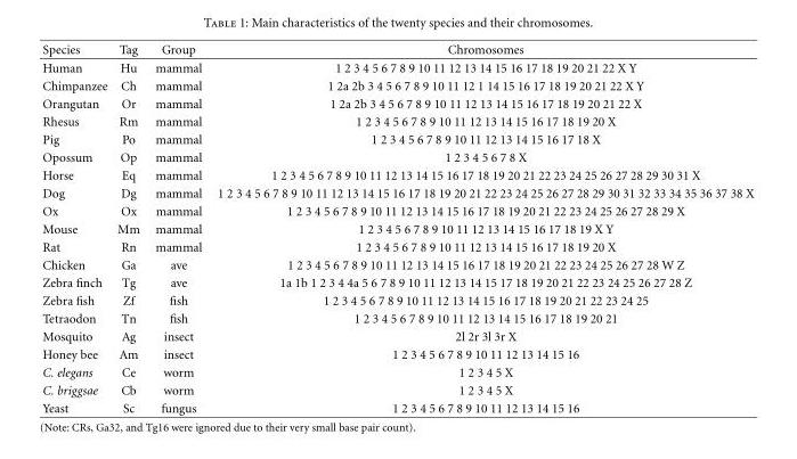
<table><thead><tr><td>Species</td><td>Tag</td><td>Group</td><td>Chromosomes</td></tr></thead><tbody><tr><td>Human</td><td>Hu</td><td>mammal</td><td>1 2 3 4 5 6 7 8 9 10 11 12 13 14 15 16 17 18 19 20 21 22 X Y</td></tr><tr><td>Chimpanzee</td><td>Ch</td><td>mammal</td><td>1 2a 2b 3 4 5 6 7 8 9 10 11 12 1 14 15 16 17 18 19 20 21 22 X Y</td></tr><tr><td>Orangutan</td><td>Or</td><td>mammal</td><td>1 2a 2b 3 4 5 6 7 8 9 10 11 12 13 14 15 16 17 18 19 20 21 22 X</td></tr><tr><td>Rhesus</td><td>Rm</td><td>mammal</td><td>1 2 3 4 5 6 7 8 9 10 11 12 13 14 15 16 17 18 19 20 X</td></tr><tr><td>Pig</td><td>Po</td><td>mammal</td><td>1 2 3 4 5 6 7 8 9 10 11 12 13 14 15 16 17 18 X</td></tr><tr><td>Opossum</td><td>Op</td><td>mammal</td><td>1 2 3 4 5 6 7 8 X</td></tr><tr><td>Horse</td><td>Eq</td><td>mammal</td><td>1 2 3 4 5 6 7 8 9 10 11 12 13 14 15 16 17 18 19 20 21 22 23 24 25 26 27 28 29 30 31 X</td></tr><tr><td>Dog</td><td>Dg</td><td>mammal</td><td>1 2 3 4 5 6 7 8 9 10 11 12 13 14 15 16 17 18 19 20 21 22 23 24 25 26 27 28 29 30 31 32 33 34 35 36 37 38 X</td></tr><tr><td>Ox</td><td>Ox</td><td>mammal</td><td>1 2 3 4 5 6 7 8 9 10 11 12 13 14 15 16 17 18 19 20 21 22 23 24 25 26 27 28 29 X</td></tr><tr><td>Mouse</td><td>Mm</td><td>mammal</td><td>1 2 3 4 5 6 7 8 9 10 11 12 13 14 15 16 17 18 19 X Y</td></tr><tr><td>Rat</td><td>Rn</td><td>mammal</td><td>1 2 3 4 5 6 7 8 9 10 11 12 13 14 15 16 17 18 19 20 X</td></tr><tr><td>Chicken</td><td>Ga</td><td>ave</td><td>1 2 3 4 5 6 7 8 9 10 11 12 13 14 15 16 17 18 19 20 21 22 23 24 25 26 27 28 W Z</td></tr><tr><td>Zebra finch</td><td>Tg</td><td>ave</td><td>1a 1b 1 2 3 4 4a 5 6 7 8 9 10 11 12 13 14 15 17 18 19 20 21 22 23 24 25 26 27 28 Z</td></tr><tr><td>Zebra fish</td><td>Zf</td><td>fish</td><td>1 2 3 4 5 6 7 8 9 10 11 12 13 14 15 16 17 18 19 20 21 22 23 24 25</td></tr><tr><td>Tetraodon</td><td>Tn</td><td>fish</td><td>1 2 3 4 5 6 7 8 9 10 11 12 13 14 15 16 17 18 19 20 21</td></tr><tr><td>Mosquito</td><td>Ag</td><td>insect</td><td>2l 2r 3l 3r X</td></tr><tr><td>Honey bee</td><td>Am</td><td>insect</td><td>1 2 3 4 5 6 7 8 9 10 11 12 13 14 15 16</td></tr><tr><td>C. elegans</td><td>Ce</td><td>worm</td><td>1 2 3 4 5 X</td></tr><tr><td>C. briggsae</td><td>Cb</td><td>worm</td><td>1 2 3 4 5 X</td></tr><tr><td>Yeast</td><td>Sc</td><td>fungus</td><td>1 2 3 4 5 6 7 8 9 10 11 12 13 14 15 16</td></tr></tbody></table>